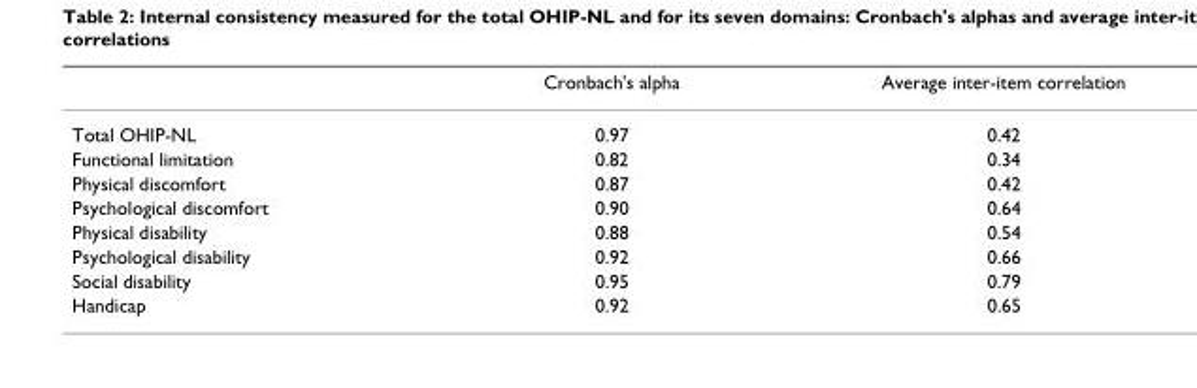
<table><thead><tr><td></td><td>Cronbach&#x27;s alpha</td><td>Average inter-item correlation</td></tr></thead><tbody><tr><td>Total OHIP-NL</td><td>0.97</td><td>0.42</td></tr><tr><td>Functional limitation</td><td>0.82</td><td>0.34</td></tr><tr><td>Physical discomfort</td><td>0.87</td><td>0.42</td></tr><tr><td>Psychological discomfort</td><td>0.90</td><td>0.64</td></tr><tr><td>Physical disability</td><td>0.88</td><td>0.54</td></tr><tr><td>Psychological disability</td><td>0.92</td><td>0.66</td></tr><tr><td>Social disability</td><td>0.95</td><td>0.79</td></tr><tr><td>Handicap</td><td>0.92</td><td>0.65</td></tr></tbody></table>